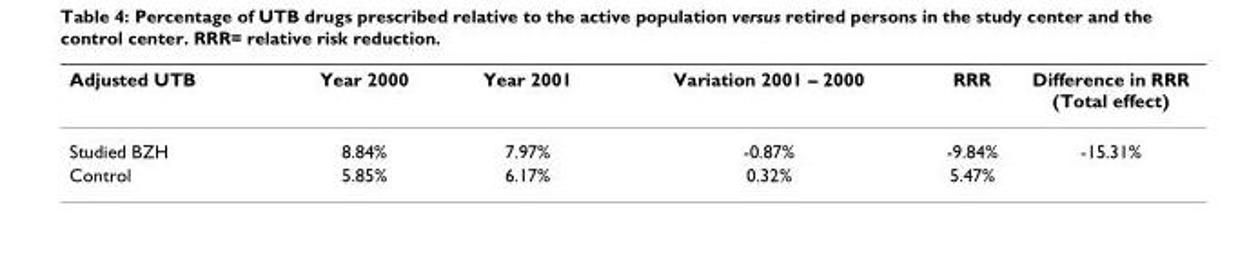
<table><thead><tr><td>Adjusted UTB</td><td>Year 2000</td><td>Year 2001</td><td>Variation 2001 – 2000</td><td>RRR</td><td>Difference in RRR (Total effect)</td></tr></thead><tbody><tr><td>Studied BZH</td><td>8.84%</td><td>7.97%</td><td>-0.87%</td><td>-9.84%</td><td>-15.31%</td></tr><tr><td>Control</td><td>5.85%</td><td>6.17%</td><td>0.32%</td><td>5.47%</td><td></td></tr></tbody></table>